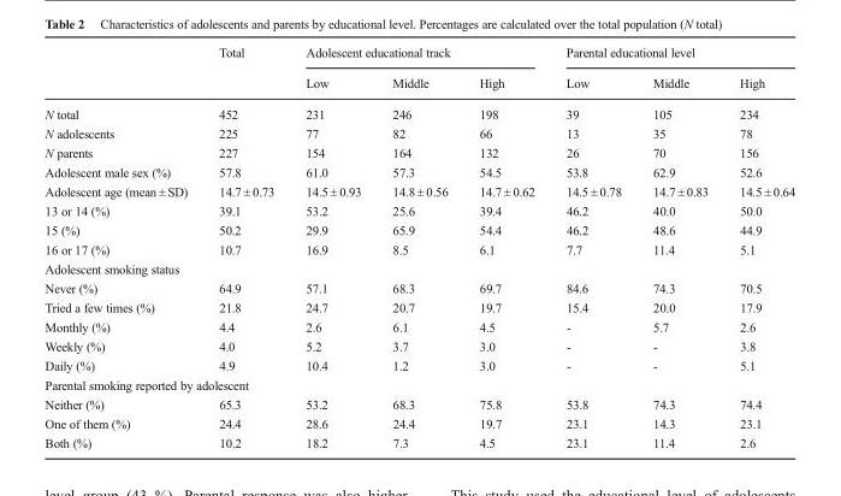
<table><thead><tr><td rowspan="2"></td><td rowspan="2">Total</td><td colspan="3">Adolescent educational track</td><td colspan="3">Parental educational level</td></tr><tr><td>Low</td><td>Middle</td><td>High</td><td>Low</td><td>Middle</td><td>High</td></tr></thead><tbody><tr><td>N total</td><td>452</td><td>231</td><td>246</td><td>198</td><td>39</td><td>105</td><td>234</td></tr><tr><td>N adolescents</td><td>225</td><td>77</td><td>82</td><td>66</td><td>13</td><td>35</td><td>78</td></tr><tr><td>N parents</td><td>227</td><td>154</td><td>164</td><td>132</td><td>26</td><td>70</td><td>156</td></tr><tr><td>Adolescent male sex (%)</td><td>57.8</td><td>61.0</td><td>57.3</td><td>54.5</td><td>53.8</td><td>62.9</td><td>52.6</td></tr><tr><td>Adolescent age (mean ± SD)</td><td>14.7 ± 0.73</td><td>14.5 ± 0.93</td><td>14.8 ± 0.56</td><td>14.7 ± 0.62</td><td>14.5 ± 0.78</td><td>14.7 ± 0.83</td><td>14.5 ± 0.64</td></tr><tr><td>13 or 14 (%)</td><td>39.1</td><td>53.2</td><td>25.6</td><td>39.4</td><td>46.2</td><td>40.0</td><td>50.0</td></tr><tr><td>15 (%)</td><td>50.2</td><td>29.9</td><td>65.9</td><td>54.4</td><td>46.2</td><td>48.6</td><td>44.9</td></tr><tr><td>16 or 17 (%)</td><td>10.7</td><td>16.9</td><td>8.5</td><td>6.1</td><td>7.7</td><td>11.4</td><td>5.1</td></tr><tr><td colspan="8">Adolescent smoking status</td></tr><tr><td>Never (%)</td><td>64.9</td><td>57.1</td><td>68.3</td><td>69.7</td><td>84.6</td><td>74.3</td><td>70.5</td></tr><tr><td>Tried a few times (%)</td><td>21.8</td><td>24.7</td><td>20.7</td><td>19.7</td><td>15.4</td><td>20.0</td><td>17.9</td></tr><tr><td>Monthly (%)</td><td>4.4</td><td>2.6</td><td>6.1</td><td>4.5</td><td>-</td><td>5.7</td><td>2.6</td></tr><tr><td>Weekly (%)</td><td>4.0</td><td>5.2</td><td>3.7</td><td>3.0</td><td>-</td><td>-</td><td>3.8</td></tr><tr><td>Daily (%)</td><td>4.9</td><td>10.4</td><td>1.2</td><td>3.0</td><td>-</td><td>-</td><td>5.1</td></tr><tr><td colspan="8">Parental smoking reported by adolescent</td></tr><tr><td>Neither (%)</td><td>65.3</td><td>53.2</td><td>68.3</td><td>75.8</td><td>53.8</td><td>74.3</td><td>74.4</td></tr><tr><td>One of them (%)</td><td>24.4</td><td>28.6</td><td>24.4</td><td>19.7</td><td>23.1</td><td>14.3</td><td>23.1</td></tr><tr><td>Both (%)</td><td>10.2</td><td>18.2</td><td>7.3</td><td>4.5</td><td>23.1</td><td>11.4</td><td>2.6</td></tr></tbody></table>